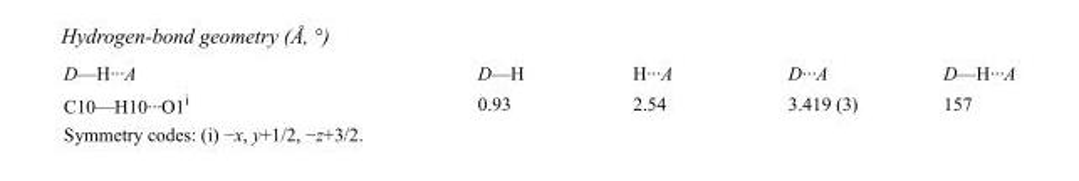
<table><tbody><tr><td>D—H···A</td><td>D—H</td><td>H···A</td><td>D···A</td><td>D—H···A</td></tr><tr><td>C10—H10···O1<sup>i</sup></td><td>0.93</td><td>2.54</td><td>3.419 (3)</td><td>157</td></tr></tbody></table>